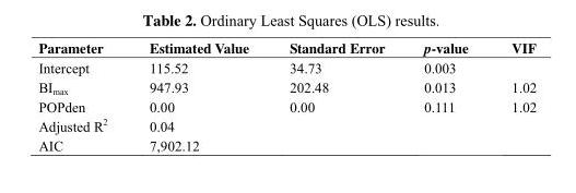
<table><thead><tr><td>Parameter</td><td>Estimated Value</td><td>Standard Error</td><td>p-value</td><td>VIF</td></tr></thead><tbody><tr><td>Intercept</td><td>115.52</td><td>34.73</td><td>0.003</td><td></td></tr><tr><td>BI<sub>max</sub></td><td>947.93</td><td>202.48</td><td>0.013</td><td>1.02</td></tr><tr><td>POPden</td><td>0.00</td><td>0.00</td><td>0.111</td><td>1.02</td></tr><tr><td>Adjusted R<sup>2</sup></td><td>0.04</td><td></td><td></td><td></td></tr><tr><td>AIC</td><td>7,902.12</td><td></td><td></td><td></td></tr></tbody></table>